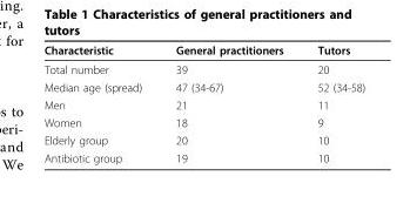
<table><thead><tr><td>Characteristic</td><td>General practitioners</td><td>Tutors</td></tr></thead><tbody><tr><td>Total number</td><td>39</td><td>20</td></tr><tr><td>Median age (spread)</td><td>47 (34-67)</td><td>52 (34-58)</td></tr><tr><td>Men</td><td>21</td><td>11</td></tr><tr><td>Women</td><td>18</td><td>9</td></tr><tr><td>Elderly group</td><td>20</td><td>10</td></tr><tr><td>Antibiotic group</td><td>19</td><td>10</td></tr></tbody></table>